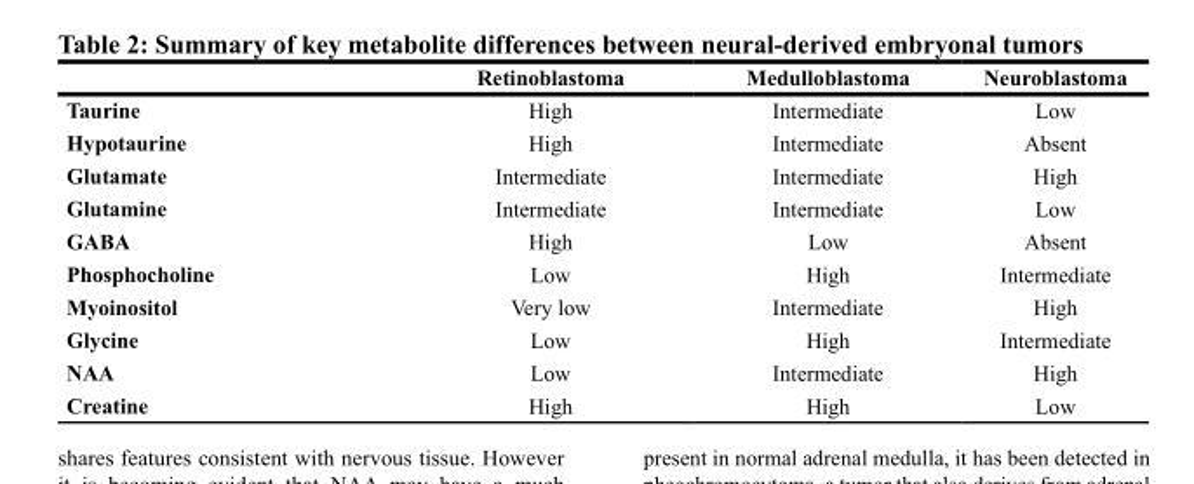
<table><thead><tr><td></td><td>Retinoblastoma</td><td>Medulloblastoma</td><td>Neuroblastoma</td></tr></thead><tbody><tr><td>Taurine</td><td>High</td><td>Intermediate</td><td>Low</td></tr><tr><td>Hypotaurine</td><td>High</td><td>Intermediate</td><td>Absent</td></tr><tr><td>Glutamate</td><td>Intermediate</td><td>Intermediate</td><td>High</td></tr><tr><td>Glutamine</td><td>Intermediate</td><td>Intermediate</td><td>Low</td></tr><tr><td>GABA</td><td>High</td><td>Low</td><td>Absent</td></tr><tr><td>Phosphocholine</td><td>Low</td><td>High</td><td>Intermediate</td></tr><tr><td>Myoinositol</td><td>Very low</td><td>Intermediate</td><td>High</td></tr><tr><td>Glycine</td><td>Low</td><td>High</td><td>Intermediate</td></tr><tr><td>NAA</td><td>Low</td><td>Intermediate</td><td>High</td></tr><tr><td>Creatine</td><td>High</td><td>High</td><td>Low</td></tr></tbody></table>